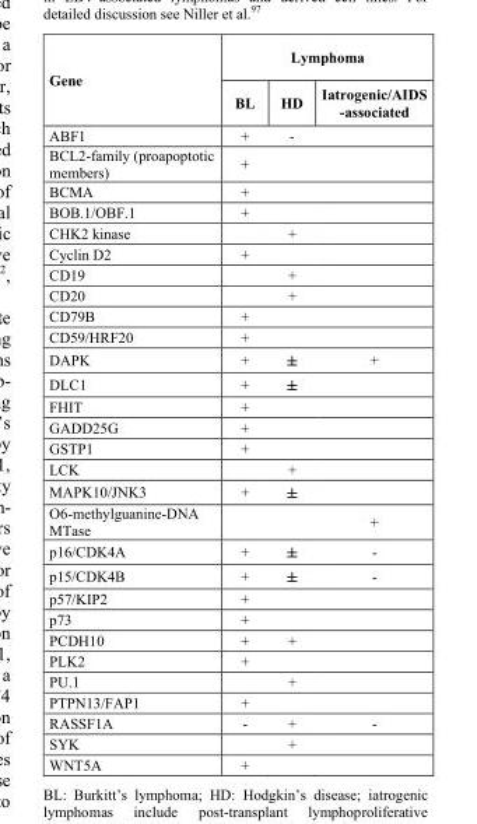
<table><thead><tr><td rowspan="2">Gene</td><td colspan="3">Lymphoma</td></tr><tr><td>BL</td><td>HD</td><td>Iatrogenic/AIDS -associated</td></tr></thead><tbody><tr><td>ABF1</td><td>+</td><td>-</td><td></td></tr><tr><td>BCL2-family (proapoptotic members)</td><td>+</td><td></td><td></td></tr><tr><td>BCMA</td><td>+</td><td></td><td></td></tr><tr><td>BOB.1/OBF.1</td><td>+</td><td></td><td></td></tr><tr><td>CHK2 kinase</td><td></td><td>+</td><td></td></tr><tr><td>Cyclin D2</td><td>+</td><td></td><td></td></tr><tr><td>CD19</td><td></td><td>+</td><td></td></tr><tr><td>CD20</td><td></td><td>+</td><td></td></tr><tr><td>CD79B</td><td>+</td><td></td><td></td></tr><tr><td>CD59/HRF20</td><td>+</td><td></td><td></td></tr><tr><td>DAPK</td><td>+</td><td>±</td><td>+</td></tr><tr><td>DLC1</td><td>+</td><td>±</td><td></td></tr><tr><td>FHIT</td><td>+</td><td></td><td></td></tr><tr><td>GADD25G</td><td>+</td><td></td><td></td></tr><tr><td>GSTP1</td><td>+</td><td></td><td></td></tr><tr><td>LCK</td><td></td><td>+</td><td></td></tr><tr><td>MAPK10/JNK3</td><td>+</td><td>±</td><td></td></tr><tr><td>O6-methylguanine-DNA MTase</td><td></td><td></td><td>+</td></tr><tr><td>p16/CDK4A</td><td>+</td><td>±</td><td>-</td></tr><tr><td>p15/CDK4B</td><td>+</td><td>±</td><td>-</td></tr><tr><td>p57/KIP2</td><td>+</td><td></td><td></td></tr><tr><td>p73</td><td>+</td><td></td><td></td></tr><tr><td>PCDH10</td><td>+</td><td>+</td><td></td></tr><tr><td>PLK2</td><td>+</td><td></td><td></td></tr><tr><td>PU.1</td><td></td><td>+</td><td></td></tr><tr><td>PTPN13/FAP1</td><td>+</td><td></td><td></td></tr><tr><td>RASSF1A</td><td>-</td><td>+</td><td>-</td></tr><tr><td>SYK</td><td></td><td>+</td><td></td></tr><tr><td>WNT5A</td><td>+</td><td></td><td></td></tr></tbody></table>